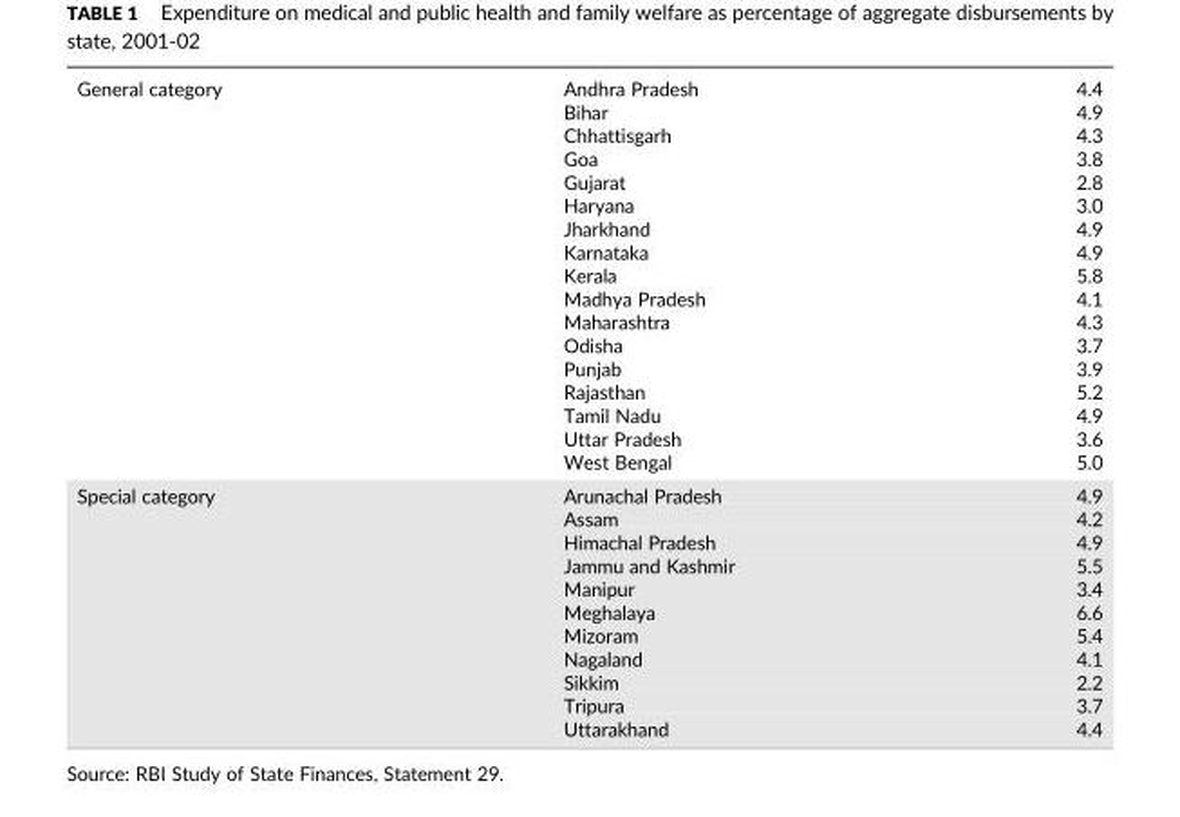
<table><tbody><tr><td rowspan="17">General category</td><td>Andhra Pradesh</td><td>4.4</td></tr><tr><td>Bihar</td><td>4.9</td></tr><tr><td>Chhattisgarh</td><td>4.3</td></tr><tr><td>Goa</td><td>3.8</td></tr><tr><td>Gujarat</td><td>2.8</td></tr><tr><td>Haryana</td><td>3.0</td></tr><tr><td>Jharkhand</td><td>4.9</td></tr><tr><td>Karnataka</td><td>4.9</td></tr><tr><td>Kerala</td><td>5.8</td></tr><tr><td>Madhya Pradesh</td><td>4.1</td></tr><tr><td>Maharashtra</td><td>4.3</td></tr><tr><td>Odisha</td><td>3.7</td></tr><tr><td>Punjab</td><td>3.9</td></tr><tr><td>Rajasthan</td><td>5.2</td></tr><tr><td>Tamil Nadu</td><td>4.9</td></tr><tr><td>Uttar Pradesh</td><td>3.6</td></tr><tr><td>West Bengal</td><td>5.0</td></tr><tr><td rowspan="11">Special category</td><td>Arunachal Pradesh</td><td>4.9</td></tr><tr><td>Assam</td><td>4.2</td></tr><tr><td>Himachal Pradesh</td><td>4.9</td></tr><tr><td>Jammu and Kashmir</td><td>5.5</td></tr><tr><td>Manipur</td><td>3.4</td></tr><tr><td>Meghalaya</td><td>6.6</td></tr><tr><td>Mizoram</td><td>5.4</td></tr><tr><td>Nagaland</td><td>4.1</td></tr><tr><td>Sikkim</td><td>2.2</td></tr><tr><td>Tripura</td><td>3.7</td></tr><tr><td>Uttarakhand</td><td>4.4</td></tr></tbody></table>